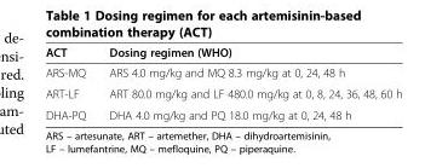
<table><thead><tr><td>ACT</td><td>Dosing regimen (WHO)</td></tr></thead><tbody><tr><td>ARS-MQ</td><td>ARS 4.0 mg/kg and MQ 8.3 mg/kg at 0, 24, 48 h</td></tr><tr><td>ART-LF</td><td>ART 80.0 mg/kg and LF 480.0 mg/kg at 0, 8, 24, 36, 48, 60 h</td></tr><tr><td>DHA-PQ</td><td>DHA 4.0 mg/kg and PQ 18.0 mg/kg at 0, 24, 48 h</td></tr></tbody></table>